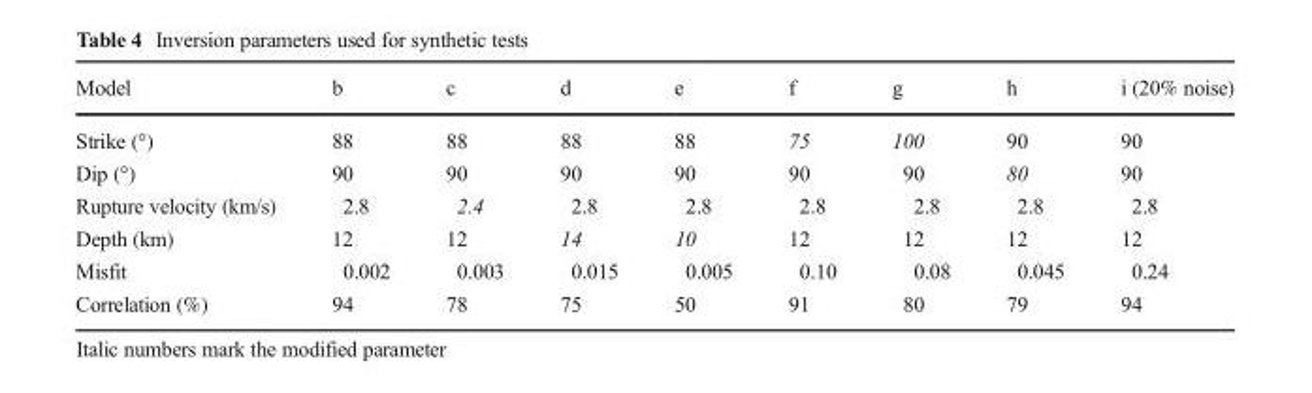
<table><thead><tr><td>Model</td><td>b</td><td>c</td><td>d</td><td>e</td><td>f</td><td>g</td><td>h</td><td>i (20% noise)</td></tr></thead><tbody><tr><td>Strike (°)</td><td>88</td><td>88</td><td>88</td><td>88</td><td>75</td><td>100</td><td>90</td><td>90</td></tr><tr><td>Dip (°)</td><td>90</td><td>90</td><td>90</td><td>90</td><td>90</td><td>90</td><td>80</td><td>90</td></tr><tr><td>Rupture velocity (km/s)</td><td>2.8</td><td>2.4</td><td>2.8</td><td>2.8</td><td>2.8</td><td>2.8</td><td>2.8</td><td>2.8</td></tr><tr><td>Depth (km)</td><td>12</td><td>12</td><td>14</td><td>10</td><td>12</td><td>12</td><td>12</td><td>12</td></tr><tr><td>Misfit</td><td>0.002</td><td>0.003</td><td>0.015</td><td>0.005</td><td>0.10</td><td>0.08</td><td>0.045</td><td>0.24</td></tr><tr><td>Correlation (%)</td><td>94</td><td>78</td><td>75</td><td>50</td><td>91</td><td>80</td><td>79</td><td>94</td></tr></tbody></table>